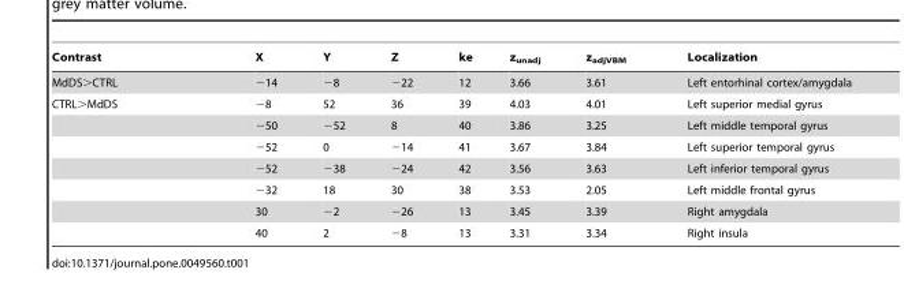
<table><thead><tr><td>Contrast</td><td>X</td><td>Y</td><td>Z</td><td>ke</td><td>z<sub>unadj</sub></td><td>z<sub>adjVBM</sub></td><td>Localization</td></tr></thead><tbody><tr><td>MdDS&gt;CTRL</td><td>−14</td><td>−8</td><td>−22</td><td>12</td><td>3.66</td><td>3.61</td><td>Left entorhinal cortex/amygdala</td></tr><tr><td rowspan="7">CTRL&gt;MdDS</td><td>−8</td><td>52</td><td>36</td><td>39</td><td>4.03</td><td>4.01</td><td>Left superior medial gyrus</td></tr><tr><td>−50</td><td>−52</td><td>8</td><td>40</td><td>3.86</td><td>3.25</td><td>Left middle temporal gyrus</td></tr><tr><td>−52</td><td>0</td><td>−14</td><td>41</td><td>3.67</td><td>3.84</td><td>Left superior temporal gyrus</td></tr><tr><td>−52</td><td>−38</td><td>−24</td><td>42</td><td>3.56</td><td>3.63</td><td>Left inferior temporal gyrus</td></tr><tr><td>−32</td><td>18</td><td>30</td><td>38</td><td>3.53</td><td>2.05</td><td>Left middle frontal gyrus</td></tr><tr><td>30</td><td>−2</td><td>−26</td><td>13</td><td>3.45</td><td>3.39</td><td>Right amygdala</td></tr><tr><td>40</td><td>2</td><td>−8</td><td>13</td><td>3.31</td><td>3.34</td><td>Right insula</td></tr></tbody></table>